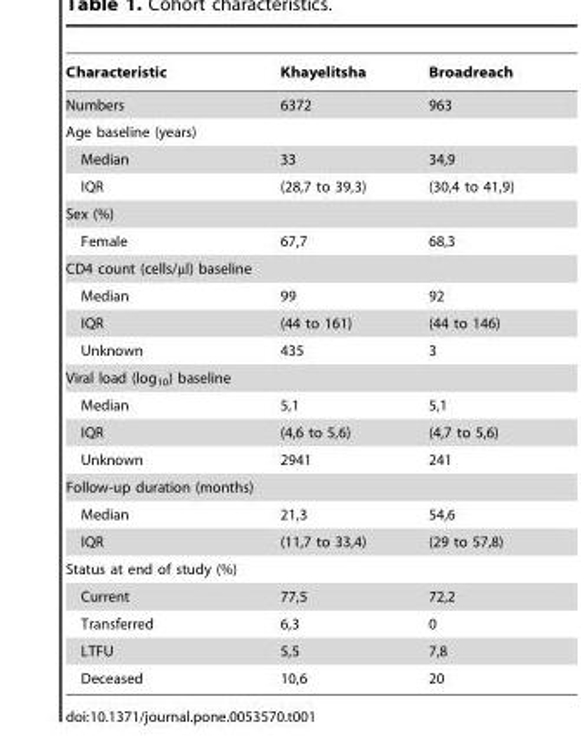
<table><thead><tr><td>Characteristic</td><td>Khayelitsha</td><td>Broadreach</td></tr></thead><tbody><tr><td>Numbers</td><td>6372</td><td>963</td></tr><tr><td colspan="3">Age baseline (years)</td></tr><tr><td>Median</td><td>33</td><td>34,9</td></tr><tr><td>IQR</td><td>(28,7 to 39,3)</td><td>(30,4 to 41,9)</td></tr><tr><td colspan="3">Sex (%)</td></tr><tr><td>Female</td><td>67,7</td><td>68,3</td></tr><tr><td colspan="3">CD4 count (cells/µl) baseline</td></tr><tr><td>Median</td><td>99</td><td>92</td></tr><tr><td>IQR</td><td>(44 to 161)</td><td>(44 to 146)</td></tr><tr><td>Unknown</td><td>435</td><td>3</td></tr><tr><td colspan="3">Viral load (log<sub>10</sub>) baseline</td></tr><tr><td>Median</td><td>5,1</td><td>5,1</td></tr><tr><td>IQR</td><td>(4,6 to 5,6)</td><td>(4,7 to 5,6)</td></tr><tr><td>Unknown</td><td>2941</td><td>241</td></tr><tr><td colspan="3">Follow-up duration (months)</td></tr><tr><td>Median</td><td>21,3</td><td>54,6</td></tr><tr><td>IQR</td><td>(11,7 to 33,4)</td><td>(29 to 57,8)</td></tr><tr><td colspan="3">Status at end of study (%)</td></tr><tr><td>Current</td><td>77,5</td><td>72,2</td></tr><tr><td>Transferred</td><td>6,3</td><td>0</td></tr><tr><td>LTFU</td><td>5,5</td><td>7,8</td></tr><tr><td>Deceased</td><td>10,6</td><td>20</td></tr></tbody></table>